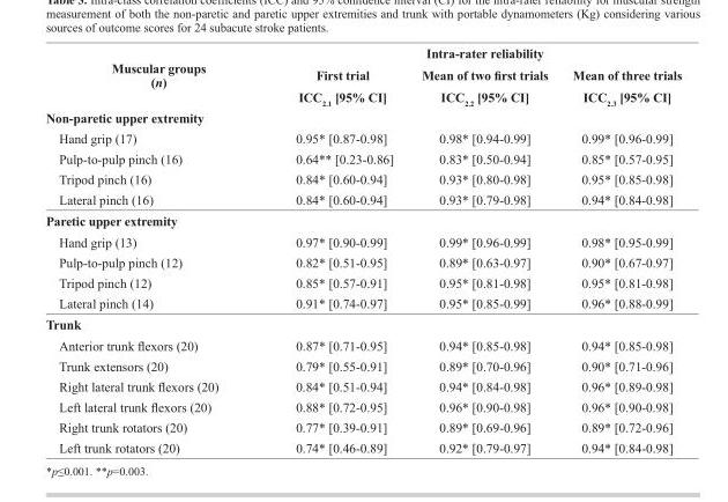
<table><thead><tr><td rowspan="3">Muscular groups (n)</td><td colspan="3">Intra-rater reliability</td></tr><tr><td rowspan="2">First trial ICC<sub>2.1</sub> [95% CI]</td><td rowspan="2">Mean of two first trials ICC<sub>2.2</sub> [95% CI]</td><td rowspan="2">Mean of three trials ICC<sub>2.3</sub> [95% CI]</td></tr><tr></tr></thead><tbody><tr><td colspan="4">Non-paretic upper extremity</td></tr><tr><td>Hand grip (17)</td><td>0.95* [0.87-0.98]</td><td>0.98* [0.94-0.99]</td><td>0.99* [0.96-0.99]</td></tr><tr><td>Pulp-to-pulp pinch (16)</td><td>0.64** [0.23-0.86]</td><td>0.83* [0.50-0.94]</td><td>0.85* [0.57-0.95]</td></tr><tr><td>Tripod pinch (16)</td><td>0.84* [0.60-0.94]</td><td>0.93* [0.80-0.98]</td><td>0.95* [0.85-0.98]</td></tr><tr><td>Lateral pinch (16)</td><td>0.84* [0.60-0.94]</td><td>0.93* [0.79-0.98]</td><td>0.94* [0.84-0.98]</td></tr><tr><td colspan="4">Paretic upper extremity</td></tr><tr><td>Hand grip (13)</td><td>0.97* [0.90-0.99]</td><td>0.99* [0.96-0.99]</td><td>0.98* [0.95-0.99]</td></tr><tr><td>Pulp-to-pulp pinch (12)</td><td>0.82* [0.51-0.95]</td><td>0.89* [0.63-0.97]</td><td>0.90* [0.67-0.97]</td></tr><tr><td>Tripod pinch (12)</td><td>0.85* [0.57-0.91]</td><td>0.95* [0.81-0.98]</td><td>0.95* [0.81-0.98]</td></tr><tr><td>Lateral pinch (14)</td><td>0.91* [0.74-0.97]</td><td>0.95* [0.85-0.99]</td><td>0.96* [0.88-0.99]</td></tr><tr><td colspan="4">Trunk</td></tr><tr><td>Anterior trunk flexors (20)</td><td>0.87* [0.71-0.95]</td><td>0.94* [0.85-0.98]</td><td>0.94* [0.85-0.98]</td></tr><tr><td>Trunk extensors (20)</td><td>0.79* [0.55-0.91]</td><td>0.89* [0.70-0.96]</td><td>0.90* [0.71-0.96]</td></tr><tr><td>Right lateral trunk flexors (20)</td><td>0.84* [0.51-0.94]</td><td>0.94* [0.84-0.98]</td><td>0.96* [0.89-0.98]</td></tr><tr><td>Left lateral trunk flexors (20)</td><td>0.88* [0.72-0.95]</td><td>0.96* [0.90-0.98]</td><td>0.96* [0.90-0.98]</td></tr><tr><td>Right trunk rotators (20)</td><td>0.77* [0.39-0.91]</td><td>0.89* [0.69-0.96]</td><td>0.89* [0.72-0.96]</td></tr><tr><td>Left trunk rotators (20)</td><td>0.74* [0.46-0.89]</td><td>0.92* [0.79-0.97]</td><td>0.94* [0.84-0.98]</td></tr></tbody></table>